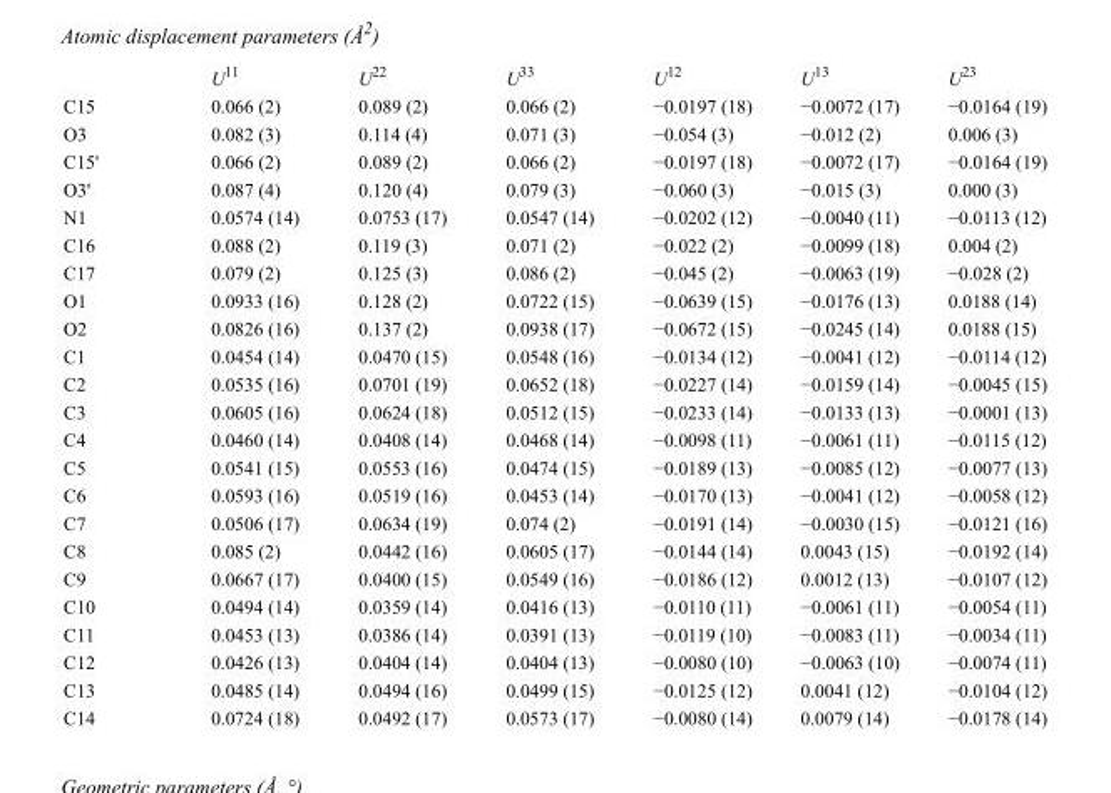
<table><thead><tr><td></td><td>U<sup>11</sup></td><td>U<sup>22</sup></td><td>U<sup>33</sup></td><td>U<sup>12</sup></td><td>U<sup>13</sup></td><td>U<sup>23</sup></td></tr></thead><tbody><tr><td>C15</td><td>0.066 (2)</td><td>0.089 (2)</td><td>0.066 (2)</td><td>−0.0197 (18)</td><td>−0.0072 (17)</td><td>−0.0164 (19)</td></tr><tr><td>O3</td><td>0.082 (3)</td><td>0.114 (4)</td><td>0.071 (3)</td><td>−0.054 (3)</td><td>−0.012 (2)</td><td>0.006 (3)</td></tr><tr><td>C15&#x27;</td><td>0.066 (2)</td><td>0.089 (2)</td><td>0.066 (2)</td><td>−0.0197 (18)</td><td>−0.0072 (17)</td><td>−0.0164 (19)</td></tr><tr><td>O3&#x27;</td><td>0.087 (4)</td><td>0.120 (4)</td><td>0.079 (3)</td><td>−0.060 (3)</td><td>−0.015 (3)</td><td>0.000 (3)</td></tr><tr><td>N1</td><td>0.0574 (14)</td><td>0.0753 (17)</td><td>0.0547 (14)</td><td>−0.0202 (12)</td><td>−0.0040 (11)</td><td>−0.0113 (12)</td></tr><tr><td>C16</td><td>0.088 (2)</td><td>0.119 (3)</td><td>0.071 (2)</td><td>−0.022 (2)</td><td>−0.0099 (18)</td><td>0.004 (2)</td></tr><tr><td>C17</td><td>0.079 (2)</td><td>0.125 (3)</td><td>0.086 (2)</td><td>−0.045 (2)</td><td>−0.0063 (19)</td><td>−0.028 (2)</td></tr><tr><td>O1</td><td>0.0933 (16)</td><td>0.128 (2)</td><td>0.0722 (15)</td><td>−0.0639 (15)</td><td>−0.0176 (13)</td><td>0.0188 (14)</td></tr><tr><td>O2</td><td>0.0826 (16)</td><td>0.137 (2)</td><td>0.0938 (17)</td><td>−0.0672 (15)</td><td>−0.0245 (14)</td><td>0.0188 (15)</td></tr><tr><td>C1</td><td>0.0454 (14)</td><td>0.0470 (15)</td><td>0.0548 (16)</td><td>−0.0134 (12)</td><td>−0.0041 (12)</td><td>−0.0114 (12)</td></tr><tr><td>C2</td><td>0.0535 (16)</td><td>0.0701 (19)</td><td>0.0652 (18)</td><td>−0.0227 (14)</td><td>−0.0159 (14)</td><td>−0.0045 (15)</td></tr><tr><td>C3</td><td>0.0605 (16)</td><td>0.0624 (18)</td><td>0.0512 (15)</td><td>−0.0233 (14)</td><td>−0.0133 (13)</td><td>−0.0001 (13)</td></tr><tr><td>C4</td><td>0.0460 (14)</td><td>0.0408 (14)</td><td>0.0468 (14)</td><td>−0.0098 (11)</td><td>−0.0061 (11)</td><td>−0.0115 (12)</td></tr><tr><td>C5</td><td>0.0541 (15)</td><td>0.0553 (16)</td><td>0.0474 (15)</td><td>−0.0189 (13)</td><td>−0.0085 (12)</td><td>−0.0077 (13)</td></tr><tr><td>C6</td><td>0.0593 (16)</td><td>0.0519 (16)</td><td>0.0453 (14)</td><td>−0.0170 (13)</td><td>−0.0041 (12)</td><td>−0.0058 (12)</td></tr><tr><td>C7</td><td>0.0506 (17)</td><td>0.0634 (19)</td><td>0.074 (2)</td><td>−0.0191 (14)</td><td>−0.0030 (15)</td><td>−0.0121 (16)</td></tr><tr><td>C8</td><td>0.085 (2)</td><td>0.0442 (16)</td><td>0.0605 (17)</td><td>−0.0144 (14)</td><td>0.0043 (15)</td><td>−0.0192 (14)</td></tr><tr><td>C9</td><td>0.0667 (17)</td><td>0.0400 (15)</td><td>0.0549 (16)</td><td>−0.0186 (12)</td><td>0.0012 (13)</td><td>−0.0107 (12)</td></tr><tr><td>C10</td><td>0.0494 (14)</td><td>0.0359 (14)</td><td>0.0416 (13)</td><td>−0.0110 (11)</td><td>−0.0061 (11)</td><td>−0.0054 (11)</td></tr><tr><td>C11</td><td>0.0453 (13)</td><td>0.0386 (14)</td><td>0.0391 (13)</td><td>−0.0119 (10)</td><td>−0.0083 (11)</td><td>−0.0034 (11)</td></tr><tr><td>C12</td><td>0.0426 (13)</td><td>0.0404 (14)</td><td>0.0404 (13)</td><td>−0.0080 (10)</td><td>−0.0063 (10)</td><td>−0.0074 (11)</td></tr><tr><td>C13</td><td>0.0485 (14)</td><td>0.0494 (16)</td><td>0.0499 (15)</td><td>−0.0125 (12)</td><td>0.0041 (12)</td><td>−0.0104 (12)</td></tr><tr><td>C14</td><td>0.0724 (18)</td><td>0.0492 (17)</td><td>0.0573 (17)</td><td>−0.0080 (14)</td><td>0.0079 (14)</td><td>−0.0178 (14)</td></tr></tbody></table>